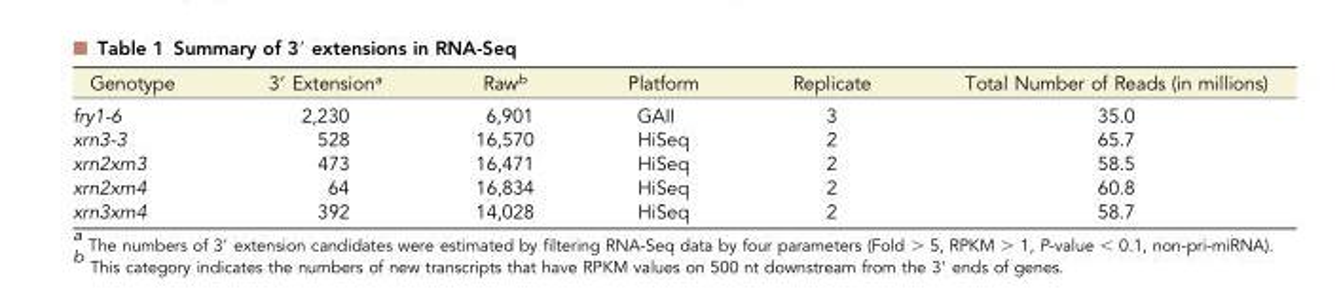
<table><thead><tr><td>Genotype</td><td>3′ Extension<sup>a</sup></td><td>Raw<sup>b</sup></td><td>Platform</td><td>Replicate</td><td>Total Number of Reads (in millions)</td></tr></thead><tbody><tr><td>fry1-6</td><td>2,230</td><td>6,901</td><td>GAII</td><td>3</td><td>35.0</td></tr><tr><td>xrn3-3</td><td>528</td><td>16,570</td><td>HiSeq</td><td>2</td><td>65.7</td></tr><tr><td>xrn2xrn3</td><td>473</td><td>16,471</td><td>HiSeq</td><td>2</td><td>58.5</td></tr><tr><td>xrn2xrn4</td><td>64</td><td>16,834</td><td>HiSeq</td><td>2</td><td>60.8</td></tr><tr><td>xrn3xrn4</td><td>392</td><td>14,028</td><td>HiSeq</td><td>2</td><td>58.7</td></tr></tbody></table>